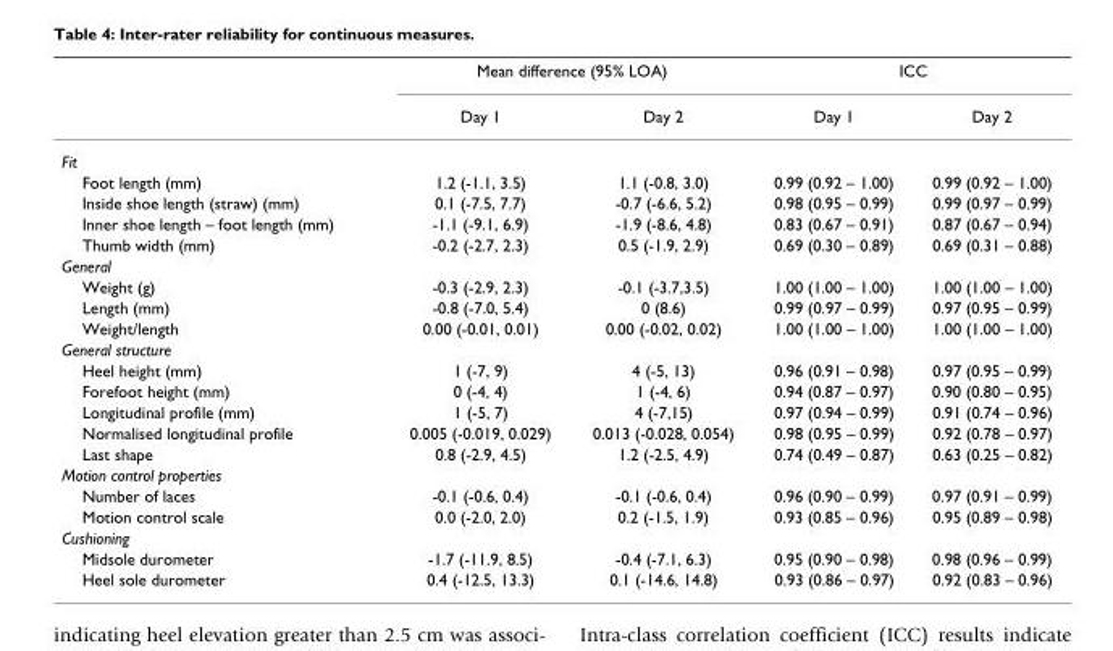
<table><thead><tr><td rowspan="2"></td><td colspan="2">Mean difference (95% LOA)</td><td colspan="2">ICC</td></tr><tr><td>Day 1</td><td>Day 2</td><td>Day 1</td><td>Day 2</td></tr></thead><tbody><tr><td colspan="5">Fit</td></tr><tr><td>Foot length (mm)</td><td>1.2 (-1.1, 3.5)</td><td>1.1 (-0.8, 3.0)</td><td>0.99 (0.92 – 1.00)</td><td>0.99 (0.92 – 1.00)</td></tr><tr><td>Inside shoe length (straw) (mm)</td><td>0.1 (-7.5, 7.7)</td><td>-0.7 (-6.6, 5.2)</td><td>0.98 (0.95 – 0.99)</td><td>0.99 (0.97 – 0.99)</td></tr><tr><td>Inner shoe length – foot length (mm)</td><td>-1.1 (-9.1, 6.9)</td><td>-1.9 (-8.6, 4.8)</td><td>0.83 (0.67 – 0.91)</td><td>0.87 (0.67 – 0.94)</td></tr><tr><td>Thumb width (mm)</td><td>-0.2 (-2.7, 2.3)</td><td>0.5 (-1.9, 2.9)</td><td>0.69 (0.30 – 0.89)</td><td>0.69 (0.31 – 0.88)</td></tr><tr><td colspan="5">General</td></tr><tr><td>Weight (g)</td><td>-0.3 (-2.9, 2.3)</td><td>-0.1 (-3.7,3.5)</td><td>1.00 (1.00 – 1.00)</td><td>1.00 (1.00 – 1.00)</td></tr><tr><td>Length (mm)</td><td>-0.8 (-7.0, 5.4)</td><td>0 (8.6)</td><td>0.99 (0.97 – 0.99)</td><td>0.97 (0.95 – 0.99)</td></tr><tr><td>Weight/length</td><td>0.00 (-0.01, 0.01)</td><td>0.00 (-0.02, 0.02)</td><td>1.00 (1.00 – 1.00)</td><td>1.00 (1.00 – 1.00)</td></tr><tr><td colspan="5">General structure</td></tr><tr><td>Heel height (mm)</td><td>1 (-7, 9)</td><td>4 (-5, 13)</td><td>0.96 (0.91 – 0.98)</td><td>0.97 (0.95 – 0.99)</td></tr><tr><td>Forefoot height (mm)</td><td>0 (-4, 4)</td><td>1 (-4, 6)</td><td>0.94 (0.87 – 0.97)</td><td>0.90 (0.80 – 0.95)</td></tr><tr><td>Longitudinal profile (mm)</td><td>1 (-5, 7)</td><td>4 (-7,15)</td><td>0.97 (0.94 – 0.99)</td><td>0.91 (0.74 – 0.96)</td></tr><tr><td>Normalised longitudinal profile</td><td>0.005 (-0.019, 0.029)</td><td>0.013 (-0.028, 0.054)</td><td>0.98 (0.95 – 0.99)</td><td>0.92 (0.78 – 0.97)</td></tr><tr><td>Last shape</td><td>0.8 (-2.9, 4.5)</td><td>1.2 (-2.5, 4.9)</td><td>0.74 (0.49 – 0.87)</td><td>0.63 (0.25 – 0.82)</td></tr><tr><td colspan="5">Motion control properties</td></tr><tr><td>Number of laces</td><td>-0.1 (-0.6, 0.4)</td><td>-0.1 (-0.6, 0.4)</td><td>0.96 (0.90 – 0.99)</td><td>0.97 (0.91 – 0.99)</td></tr><tr><td>Motion control scale</td><td>0.0 (-2.0, 2.0)</td><td>0.2 (-1.5, 1.9)</td><td>0.93 (0.85 – 0.96)</td><td>0.95 (0.89 – 0.98)</td></tr><tr><td colspan="5">Cushioning</td></tr><tr><td>Midsole durometer</td><td>-1.7 (-11.9, 8.5)</td><td>-0.4 (-7.1, 6.3)</td><td>0.95 (0.90 – 0.98)</td><td>0.98 (0.96 – 0.99)</td></tr><tr><td>Heel sole durometer</td><td>0.4 (-12.5, 13.3)</td><td>0.1 (-14.6, 14.8)</td><td>0.93 (0.86 – 0.97)</td><td>0.92 (0.83 – 0.96)</td></tr></tbody></table>